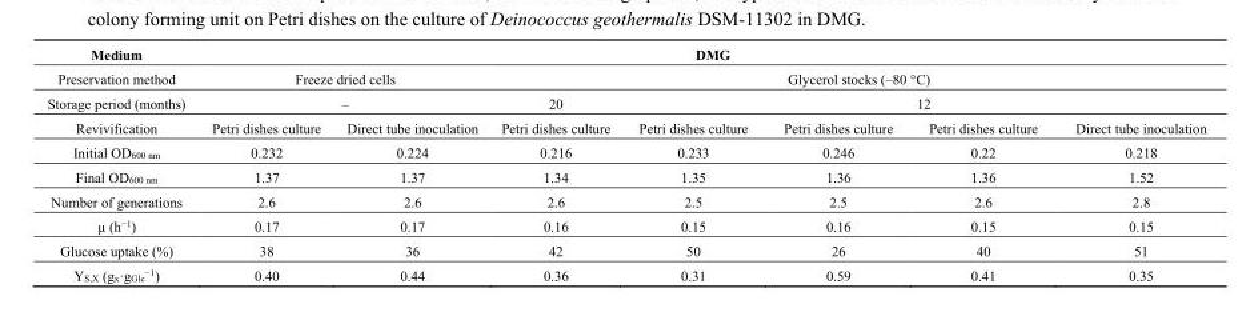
<table><thead><tr><td rowspan="4">Medium Preservation method Storage period (months) Revivification</td><td colspan="7">DMG</td></tr><tr><td rowspan="2" colspan="2">Freeze dried cells –</td><td colspan="5">Glycerol stocks (–80 °C)</td></tr><tr><td rowspan="2">20 Petri dishes culture</td><td colspan="4">12</td></tr><tr><td>Petri dishes culture</td><td>Direct tube inoculation</td><td>Petri dishes culture</td><td>Petri dishes culture</td><td>Petri dishes culture</td><td>Direct tube inoculation</td></tr></thead><tbody><tr><td>Initial OD<sub>600 nm</sub></td><td>0.232</td><td>0.224</td><td>0.216</td><td>0.233</td><td>0.246</td><td>0.22</td><td>0.218</td></tr><tr><td>Final OD<sub>600 nm</sub></td><td>1.37</td><td>1.37</td><td>1.34</td><td>1.35</td><td>1.36</td><td>1.36</td><td>1.52</td></tr><tr><td>Number of generations</td><td>2.6</td><td>2.6</td><td>2.6</td><td>2.5</td><td>2.5</td><td>2.6</td><td>2.8</td></tr><tr><td>µ (h<sup>−1</sup>)</td><td>0.17</td><td>0.17</td><td>0.16</td><td>0.15</td><td>0.16</td><td>0.15</td><td>0.15</td></tr><tr><td>Glucose uptake (%)</td><td>38</td><td>36</td><td>42</td><td>50</td><td>26</td><td>40</td><td>51</td></tr><tr><td>Y<sub>S,X</sub> (g<sub>x</sub>·g<sub>Glc</sub><sup>−1</sup>)</td><td>0.40</td><td>0.44</td><td>0.36</td><td>0.31</td><td>0.59</td><td>0.41</td><td>0.35</td></tr></tbody></table>